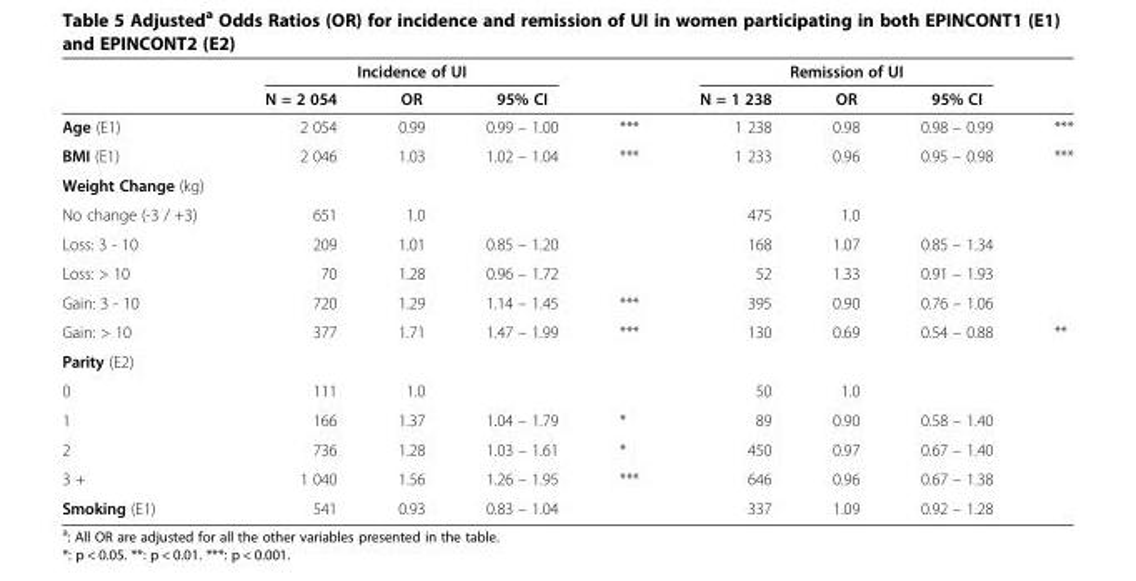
<table><thead><tr><td rowspan="2"></td><td rowspan="2">N = 2 054</td><td rowspan="2">Incidence of UI OR</td><td rowspan="2">95% CI</td><td rowspan="2"></td><td rowspan="2">N = 1 238</td><td rowspan="2">Remission of UI OR</td><td rowspan="2">95% CI</td><td rowspan="2"></td></tr><tr></tr></thead><tbody><tr><td>Age (E1)</td><td>2 054</td><td>0.99</td><td>0.99 – 1.00</td><td>***</td><td>1 238</td><td>0.98</td><td>0.98 – 0.99</td><td>***</td></tr><tr><td>BMI (E1)</td><td>2 046</td><td>1.03</td><td>1.02 – 1.04</td><td>***</td><td>1 233</td><td>0.96</td><td>0.95 – 0.98</td><td>***</td></tr><tr><td colspan="9">Weight Change (kg)</td></tr><tr><td>No change (-3 / +3)</td><td>651</td><td>1.0</td><td></td><td></td><td>475</td><td>1.0</td><td></td><td></td></tr><tr><td>Loss: 3 - 10</td><td>209</td><td>1.01</td><td>0.85 – 1.20</td><td></td><td>168</td><td>1.07</td><td>0.85 – 1.34</td><td></td></tr><tr><td>Loss: &gt; 10</td><td>70</td><td>1.28</td><td>0.96 – 1.72</td><td></td><td>52</td><td>1.33</td><td>0.91 – 1.93</td><td></td></tr><tr><td>Gain: 3 - 10</td><td>720</td><td>1.29</td><td>1.14 – 1.45</td><td>***</td><td>395</td><td>0.90</td><td>0.76 – 1.06</td><td></td></tr><tr><td>Gain: &gt; 10</td><td>377</td><td>1.71</td><td>1.47 – 1.99</td><td>***</td><td>130</td><td>0.69</td><td>0.54 – 0.88</td><td>**</td></tr><tr><td colspan="9">Parity (E2)</td></tr><tr><td>0</td><td>111</td><td>1.0</td><td></td><td></td><td>50</td><td>1.0</td><td></td><td></td></tr><tr><td>1</td><td>166</td><td>1.37</td><td>1.04 – 1.79</td><td>*</td><td>89</td><td>0.90</td><td>0.58 – 1.40</td><td></td></tr><tr><td>2</td><td>736</td><td>1.28</td><td>1.03 – 1.61</td><td>*</td><td>450</td><td>0.97</td><td>0.67 – 1.40</td><td></td></tr><tr><td>3 +</td><td>1 040</td><td>1.56</td><td>1.26 – 1.95</td><td>***</td><td>646</td><td>0.96</td><td>0.67 – 1.38</td><td></td></tr><tr><td>Smoking (E1)</td><td>541</td><td>0.93</td><td>0.83 – 1.04</td><td></td><td>337</td><td>1.09</td><td>0.92 – 1.28</td><td></td></tr></tbody></table>